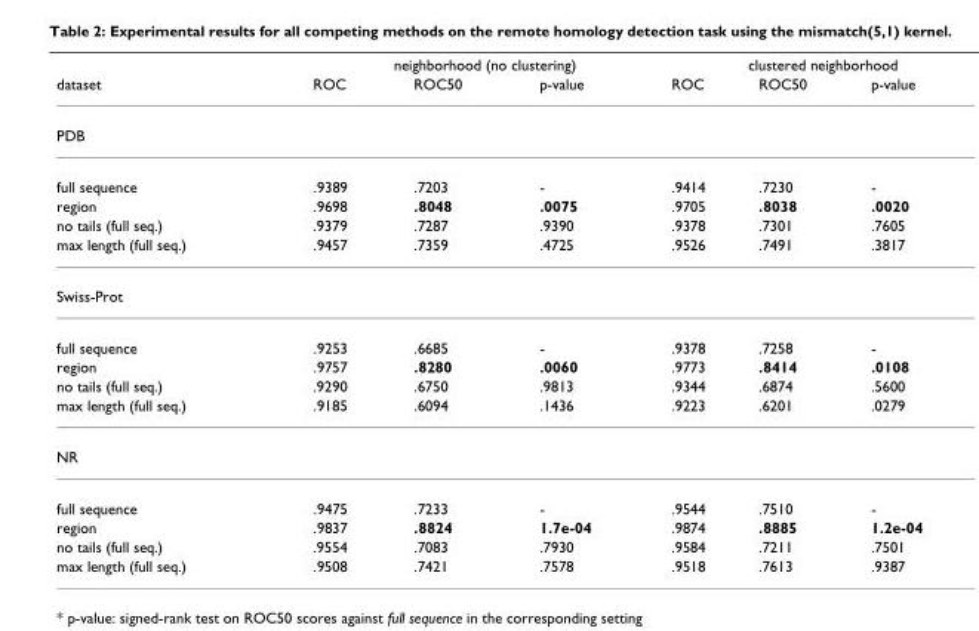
<table><thead><tr><td rowspan="2">dataset</td><td colspan="3">neighborhood (no clustering)</td><td colspan="3">clustered neighborhood</td></tr><tr><td>ROC</td><td>ROC50</td><td>p-value</td><td>ROC</td><td>ROC50</td><td>p-value</td></tr></thead><tbody><tr><td colspan="7">PDB</td></tr><tr><td>full sequence</td><td>.9389</td><td>.7203</td><td>-</td><td>.9414</td><td>.7230</td><td>-</td></tr><tr><td>region</td><td>.9698</td><td>.8048</td><td>.0075</td><td>.9705</td><td>.8038</td><td>.0020</td></tr><tr><td>no tails (full seq.)</td><td>.9379</td><td>.7287</td><td>.9390</td><td>.9378</td><td>.7301</td><td>.7605</td></tr><tr><td>max length (full seq.)</td><td>.9457</td><td>.7359</td><td>.4725</td><td>.9526</td><td>.7491</td><td>.3817</td></tr><tr><td colspan="7">Swiss-Prot</td></tr><tr><td>full sequence</td><td>.9253</td><td>.6685</td><td>-</td><td>.9378</td><td>.7258</td><td>-</td></tr><tr><td>region</td><td>.9757</td><td>.8280</td><td>.0060</td><td>.9773</td><td>.8414</td><td>.0108</td></tr><tr><td>no tails (full seq.)</td><td>.9290</td><td>.6750</td><td>.9813</td><td>.9344</td><td>.6874</td><td>.5600</td></tr><tr><td>max length (full seq.)</td><td>.9185</td><td>.6094</td><td>.1436</td><td>.9223</td><td>.6201</td><td>.0279</td></tr><tr><td colspan="7">NR</td></tr><tr><td>full sequence</td><td>.9475</td><td>.7233</td><td>-</td><td>.9544</td><td>.7510</td><td>-</td></tr><tr><td>region</td><td>.9837</td><td>.8824</td><td>1.7e-04</td><td>.9874</td><td>.8885</td><td>1.2e-04</td></tr><tr><td>no tails (full seq.)</td><td>.9554</td><td>.7083</td><td>.7930</td><td>.9584</td><td>.7211</td><td>.7501</td></tr><tr><td>max length (full seq.)</td><td>.9508</td><td>.7421</td><td>.7578</td><td>.9518</td><td>.7613</td><td>.9387</td></tr></tbody></table>